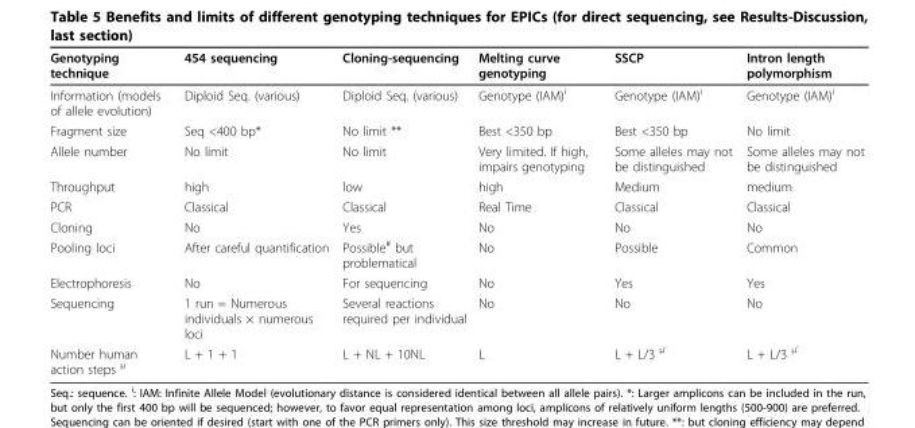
<table><thead><tr><td>Genotyping technique</td><td>454 sequencing</td><td>Cloning-sequencing</td><td>Melting curve genotyping</td><td>SSCP</td><td>Intron length polymorphism</td></tr></thead><tbody><tr><td>Information (models of allele evolution)</td><td>Diploid Seq. (various)</td><td>Diploid Seq. (various)</td><td>Genotype (IAM)<sup>i</sup></td><td>Genotype (IAM)<sup>i</sup></td><td>Genotype (IAM)<sup>i</sup></td></tr><tr><td>Fragment size</td><td>Seq &lt;400 bp*</td><td>No limit **</td><td>Best &lt;350 bp</td><td>Best &lt;350 bp</td><td>No limit</td></tr><tr><td>Allele number</td><td>No limit</td><td>No limit</td><td>Very limited. If high, impairs genotyping</td><td>Some alleles may not be distinguished</td><td>Some alleles may not be distinguished</td></tr><tr><td>Throughput</td><td>high</td><td>low</td><td>high</td><td>Medium</td><td>medium</td></tr><tr><td>PCR</td><td>Classical</td><td>Classical</td><td>Real Time</td><td>Classical</td><td>Classical</td></tr><tr><td>Cloning</td><td>No</td><td>Yes</td><td>No</td><td>No</td><td>No</td></tr><tr><td>Pooling loci</td><td>After careful quantification</td><td>Possible<sup>#</sup> but problematical</td><td>No</td><td>Possible</td><td>Common</td></tr><tr><td>Electrophoresis</td><td>No</td><td>For sequencing</td><td>No</td><td>Yes</td><td>Yes</td></tr><tr><td>Sequencing</td><td>1 run = Numerous individuals × numerous loci</td><td>Several reactions required per individual</td><td>No</td><td>No</td><td>No</td></tr><tr><td>Number human action steps <sup>μ</sup></td><td>L + 1 + 1</td><td>L + NL + 10NL</td><td>L</td><td>L + L/3 <sup>μ’</sup></td><td>L + L/3 <sup>μ’</sup></td></tr></tbody></table>